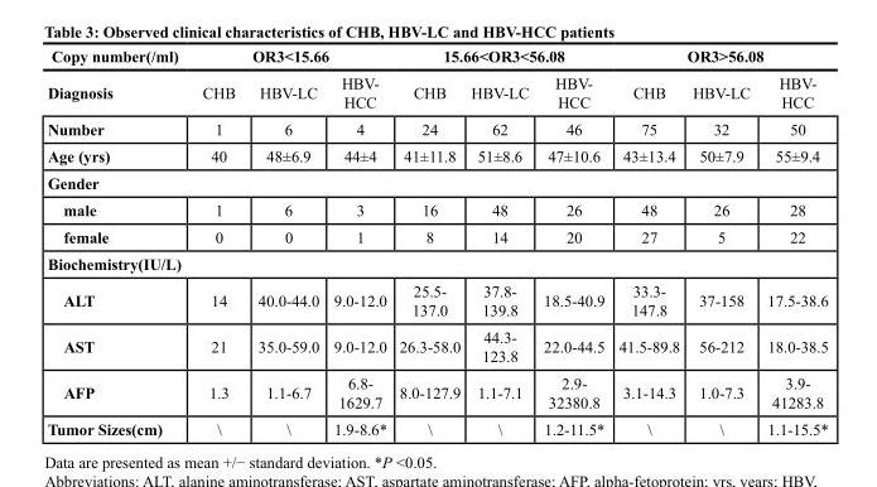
<table><thead><tr><td rowspan="2">Copy number(/ml) Diagnosis</td><td colspan="3">OR3&lt;15.66</td><td colspan="3">15.66&lt;OR3&lt;56.08</td><td colspan="3">OR3&gt;56.08</td></tr><tr><td>CHB</td><td>HBV-LC</td><td>HBV- HCC</td><td>CHB</td><td>HBV-LC</td><td>HBV- HCC</td><td>CHB</td><td>HBV-LC</td><td>HBV- HCC</td></tr></thead><tbody><tr><td>Number</td><td>1</td><td>6</td><td>4</td><td>24</td><td>62</td><td>46</td><td>75</td><td>32</td><td>50</td></tr><tr><td>Age (yrs)</td><td>40</td><td>48±6.9</td><td>44±4</td><td>41±11.8</td><td>51±8.6</td><td>47±10.6</td><td>43±13.4</td><td>50±7.9</td><td>55±9.4</td></tr><tr><td colspan="10">Gender</td></tr><tr><td>male</td><td>1</td><td>6</td><td>3</td><td>16</td><td>48</td><td>26</td><td>48</td><td>26</td><td>28</td></tr><tr><td>female</td><td>0</td><td>0</td><td>1</td><td>8</td><td>14</td><td>20</td><td>27</td><td>5</td><td>22</td></tr><tr><td colspan="10">Biochemistry(IU/L)</td></tr><tr><td>ALT</td><td>14</td><td>40.0-44.0</td><td>9.0-12.0</td><td>25.5- 137.0</td><td>37.8- 139.8</td><td>18.5-40.9</td><td>33.3- 147.8</td><td>37-158</td><td>17.5-38.6</td></tr><tr><td>AST</td><td>21</td><td>35.0-59.0</td><td>9.0-12.0</td><td>26.3-58.0</td><td>44.3- 123.8</td><td>22.0-44.5</td><td>41.5-89.8</td><td>56-212</td><td>18.0-38.5</td></tr><tr><td>AFP</td><td>1.3</td><td>1.1-6.7</td><td>6.8- 1629.7</td><td>8.0-127.9</td><td>1.1-7.1</td><td>2.9- 32380.8</td><td>3.1-14.3</td><td>1.0-7.3</td><td>3.9- 41283.8</td></tr><tr><td>Tumor Sizes(cm)</td><td>\</td><td>\</td><td>1.9-8.6*</td><td>\</td><td>\</td><td>1.2-11.5*</td><td>\</td><td>\</td><td>1.1-15.5*</td></tr></tbody></table>